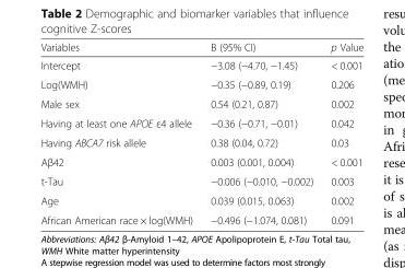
<table><thead><tr><td>Variables</td><td>B (95% CI)</td><td>p Value</td></tr></thead><tbody><tr><td>Intercept</td><td>−3.08 (−4.70, −1.45)</td><td>&lt; 0.001</td></tr><tr><td>Log(WMH)</td><td>−0.35 (−0.89, 0.19)</td><td>0.206</td></tr><tr><td>Male sex</td><td>0.54 (0.21, 0.87)</td><td>0.002</td></tr><tr><td>Having at least one APOE ε4 allele</td><td>−0.36 (−0.71, −0.01)</td><td>0.042</td></tr><tr><td>Having ABCA7 risk allele</td><td>0.38 (0.04, 0.72)</td><td>0.03</td></tr><tr><td>Aβ42</td><td>0.003 (0.001, 0.004)</td><td>&lt; 0.001</td></tr><tr><td>t-Tau</td><td>−0.006 (−0.010, −0.002)</td><td>0.003</td></tr><tr><td>Age</td><td>0.039 (0.015, 0.063)</td><td>0.002</td></tr><tr><td>African American race × log(WMH)</td><td>−0.496 (−1.074, 0.081)</td><td>0.091</td></tr></tbody></table>